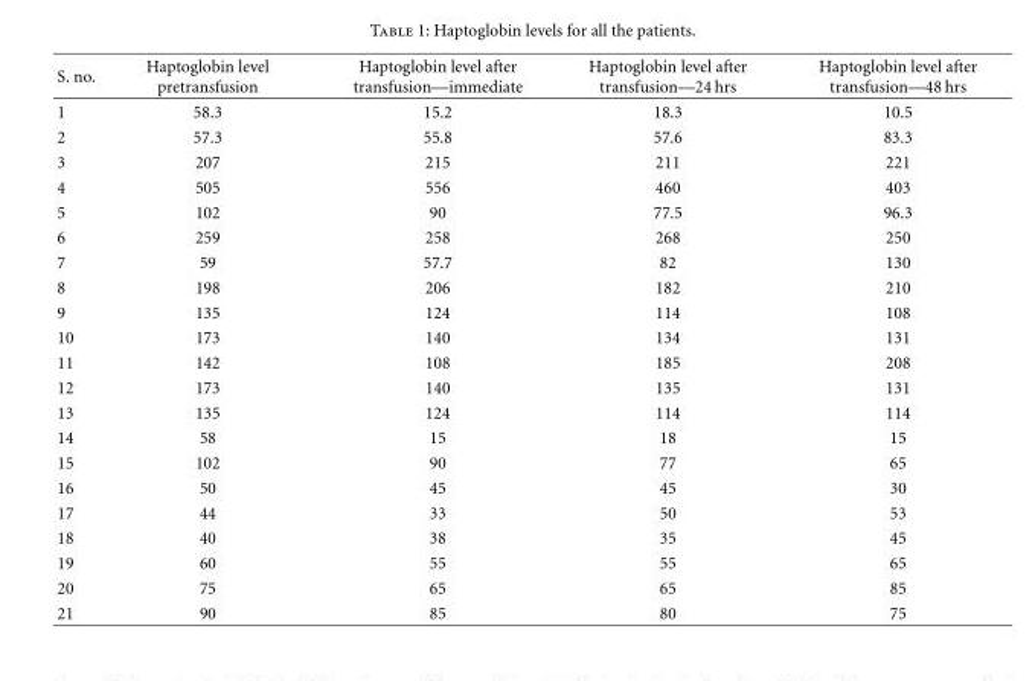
<table><thead><tr><td>S. no.</td><td>Haptoglobin level pretransfusion</td><td>Haptoglobin level after transfusion—immediate</td><td>Haptoglobin level after transfusion—24 hrs</td><td>Haptoglobin level after transfusion—48 hrs</td></tr></thead><tbody><tr><td>1</td><td>58.3</td><td>15.2</td><td>18.3</td><td>10.5</td></tr><tr><td>2</td><td>57.3</td><td>55.8</td><td>57.6</td><td>83.3</td></tr><tr><td>3</td><td>207</td><td>215</td><td>211</td><td>221</td></tr><tr><td>4</td><td>505</td><td>556</td><td>460</td><td>403</td></tr><tr><td>5</td><td>102</td><td>90</td><td>77.5</td><td>96.3</td></tr><tr><td>6</td><td>259</td><td>258</td><td>268</td><td>250</td></tr><tr><td>7</td><td>59</td><td>57.7</td><td>82</td><td>130</td></tr><tr><td>8</td><td>198</td><td>206</td><td>182</td><td>210</td></tr><tr><td>9</td><td>135</td><td>124</td><td>114</td><td>108</td></tr><tr><td>10</td><td>173</td><td>140</td><td>134</td><td>131</td></tr><tr><td>11</td><td>142</td><td>108</td><td>185</td><td>208</td></tr><tr><td>12</td><td>173</td><td>140</td><td>135</td><td>131</td></tr><tr><td>13</td><td>135</td><td>124</td><td>114</td><td>114</td></tr><tr><td>14</td><td>58</td><td>15</td><td>18</td><td>15</td></tr><tr><td>15</td><td>102</td><td>90</td><td>77</td><td>65</td></tr><tr><td>16</td><td>50</td><td>45</td><td>45</td><td>30</td></tr><tr><td>17</td><td>44</td><td>33</td><td>50</td><td>53</td></tr><tr><td>18</td><td>40</td><td>38</td><td>35</td><td>45</td></tr><tr><td>19</td><td>60</td><td>55</td><td>55</td><td>65</td></tr><tr><td>20</td><td>75</td><td>65</td><td>65</td><td>85</td></tr><tr><td>21</td><td>90</td><td>85</td><td>80</td><td>75</td></tr></tbody></table>